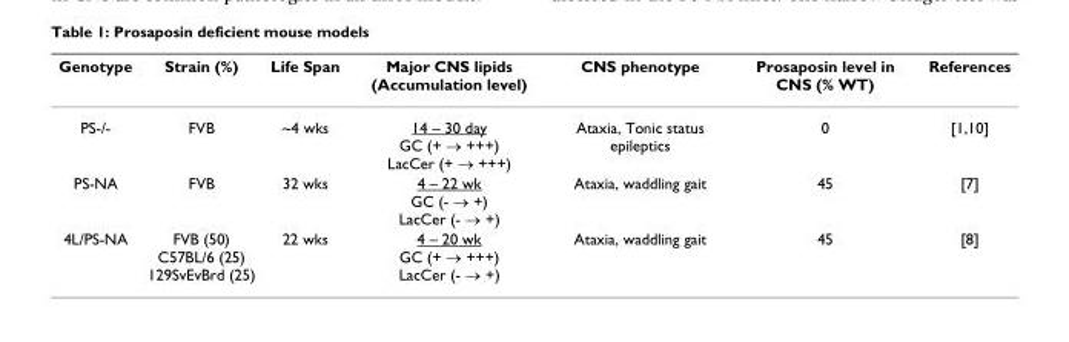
<table><thead><tr><td>Genotype</td><td>Strain (%)</td><td>Life Span</td><td>Major CNS lipids (Accumulation level)</td><td>CNS phenotype</td><td>Prosaposin level in CNS (% WT)</td><td>References</td></tr></thead><tbody><tr><td>PS-/-</td><td>FVB</td><td>~4 wks</td><td>14 – 30 day GC (+ → +++) LacCer (+ → +++)</td><td>Ataxia, Tonic status epileptics</td><td>0</td><td>[1,10]</td></tr><tr><td>PS-NA</td><td>FVB</td><td>32 wks</td><td>4 – 22 wk GC (- → +) LacCer (- → +)</td><td>Ataxia, waddling gait</td><td>45</td><td>[7]</td></tr><tr><td>4L/PS-NA</td><td>FVB (50) C57BL/6 (25) 129SvEvBrd (25)</td><td>22 wks</td><td>4 – 20 wk GC (+ → +++) LacCer (- → +)</td><td>Ataxia, waddling gait</td><td>45</td><td>[8]</td></tr></tbody></table>